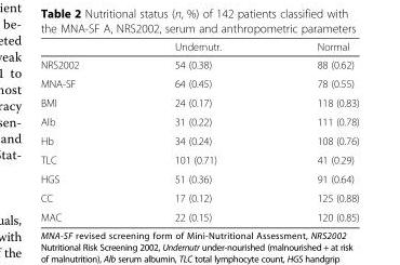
<table><thead><tr><td></td><td>Undernutr.</td><td>Normal</td></tr></thead><tbody><tr><td>NRS2002</td><td>54 (0.38)</td><td>88 (0.62)</td></tr><tr><td>MNA-SF</td><td>64 (0.45)</td><td>78 (0.55)</td></tr><tr><td>BMI</td><td>24 (0.17)</td><td>118 (0.83)</td></tr><tr><td>Alb</td><td>31 (0.22)</td><td>111 (0.78)</td></tr><tr><td>Hb</td><td>34 (0.24)</td><td>108 (0.76)</td></tr><tr><td>TLC</td><td>101 (0.71)</td><td>41 (0.29)</td></tr><tr><td>HGS</td><td>51 (0.36)</td><td>91 (0.64)</td></tr><tr><td>CC</td><td>17 (0.12)</td><td>125 (0.88)</td></tr><tr><td>MAC</td><td>22 (0.15)</td><td>120 (0.85)</td></tr></tbody></table>